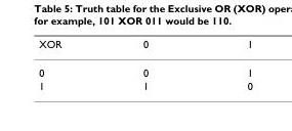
<table><thead><tr><td>XOR</td><td>0</td><td>1</td></tr></thead><tbody><tr><td>0</td><td>0</td><td>1</td></tr><tr><td>1</td><td>1</td><td>0</td></tr></tbody></table>